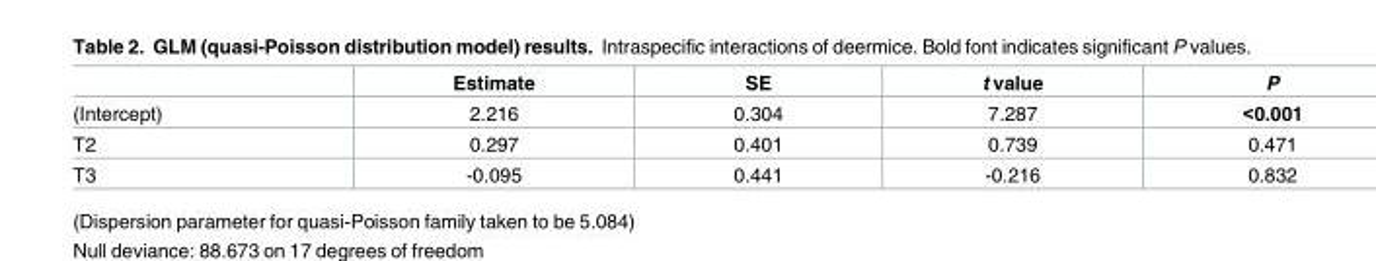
<table><thead><tr><td></td><td>Estimate</td><td>SE</td><td>t value</td><td>P</td></tr></thead><tbody><tr><td>(Intercept)</td><td>2.216</td><td>0.304</td><td>7.287</td><td>&lt;0.001</td></tr><tr><td>T2</td><td>0.297</td><td>0.401</td><td>0.739</td><td>0.471</td></tr><tr><td>T3</td><td>-0.095</td><td>0.441</td><td>-0.216</td><td>0.832</td></tr></tbody></table>